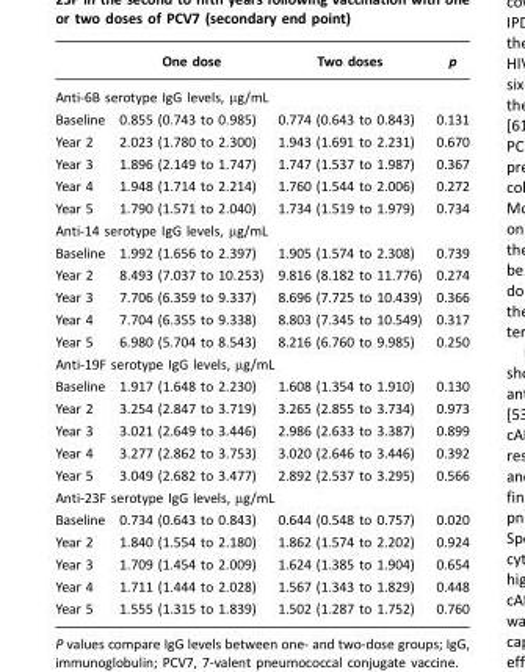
<table><thead><tr><td></td><td>One dose</td><td>Two doses</td><td>p</td></tr></thead><tbody><tr><td colspan="4">Anti-6B serotype IgG levels, µg/mL</td></tr><tr><td>Baseline</td><td>0.855 (0.743 to 0.985)</td><td>0.774 (0.643 to 0.843)</td><td>0.131</td></tr><tr><td>Year 2</td><td>2.023 (1.780 to 2.300)</td><td>1.943 (1.691 to 2.231)</td><td>0.670</td></tr><tr><td>Year 3</td><td>1.896 (2.149 to 1.747)</td><td>1.747 (1.537 to 1.987)</td><td>0.367</td></tr><tr><td>Year 4</td><td>1.948 (1.714 to 2.214)</td><td>1.760 (1.544 to 2.006)</td><td>0.272</td></tr><tr><td>Year 5</td><td>1.790 (1.571 to 2.040)</td><td>1.734 (1.519 to 1.979)</td><td>0.734</td></tr><tr><td colspan="4">Anti-14 serotype IgG levels, µg/mL</td></tr><tr><td>Baseline</td><td>1.992 (1.656 to 2.397)</td><td>1.905 (1.574 to 2.308)</td><td>0.739</td></tr><tr><td>Year 2</td><td>8.493 (7.037 to 10.253)</td><td>9.816 (8.182 to 11.776)</td><td>0.274</td></tr><tr><td>Year 3</td><td>7.706 (6.359 to 9.337)</td><td>8.696 (7.725 to 10.439)</td><td>0.366</td></tr><tr><td>Year 4</td><td>7.704 (6.355 to 9.338)</td><td>8.803 (7.345 to 10.549)</td><td>0.317</td></tr><tr><td>Year 5</td><td>6.980 (5.704 to 8.543)</td><td>8.216 (6.760 to 9.985)</td><td>0.250</td></tr><tr><td colspan="4">Anti-19F serotype IgG levels, µg/mL</td></tr><tr><td>Baseline</td><td>1.917 (1.648 to 2.230)</td><td>1.608 (1.354 to 1.910)</td><td>0.130</td></tr><tr><td>Year 2</td><td>3.254 (2.847 to 3.719)</td><td>3.265 (2.855 to 3.734)</td><td>0.973</td></tr><tr><td>Year 3</td><td>3.021 (2.649 to 3.446)</td><td>2.986 (2.633 to 3.387)</td><td>0.899</td></tr><tr><td>Year 4</td><td>3.277 (2.862 to 3.753)</td><td>3.020 (2.646 to 3.446)</td><td>0.392</td></tr><tr><td>Year 5</td><td>3.049 (2.682 to 3.477)</td><td>2.892 (2.537 to 3.295)</td><td>0.566</td></tr><tr><td colspan="4">Anti-23F serotype IgG levels, µg/mL</td></tr><tr><td>Baseline</td><td>0.734 (0.643 to 0.843)</td><td>0.644 (0.548 to 0.757)</td><td>0.020</td></tr><tr><td>Year 2</td><td>1.840 (1.554 to 2.180)</td><td>1.862 (1.574 to 2.202)</td><td>0.924</td></tr><tr><td>Year 3</td><td>1.709 (1.454 to 2.009)</td><td>1.624 (1.385 to 1.904)</td><td>0.654</td></tr><tr><td>Year 4</td><td>1.711 (1.444 to 2.028)</td><td>1.567 (1.343 to 1.829)</td><td>0.448</td></tr><tr><td>Year 5</td><td>1.555 (1.315 to 1.839)</td><td>1.502 (1.287 to 1.752)</td><td>0.760</td></tr></tbody></table>